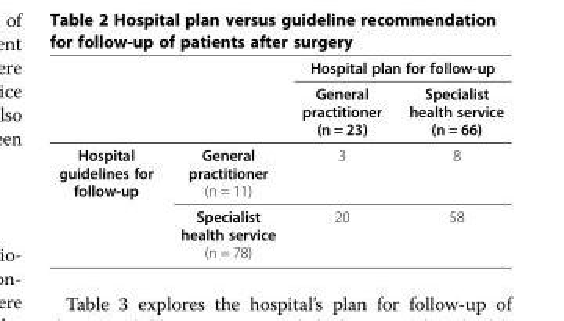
<table><thead><tr><td rowspan="2"></td><td rowspan="2"></td><td colspan="2">Hospital plan for follow-up</td></tr><tr><td>General practitioner (n = 23)</td><td>Specialist health service (n = 66)</td></tr></thead><tbody><tr><td rowspan="2">Hospital guidelines for follow-up</td><td>General practitioner (n = 11)</td><td>3</td><td>8</td></tr><tr><td>Specialist health service (n = 78)</td><td>20</td><td>58</td></tr></tbody></table>